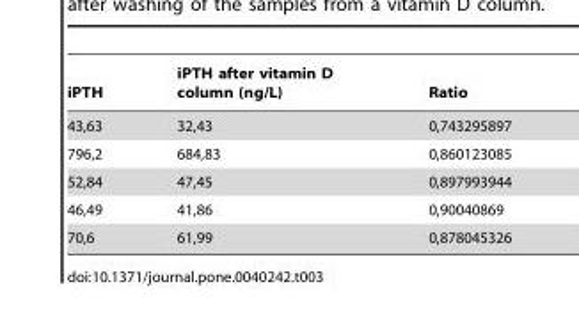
<table><thead><tr><td>iPTH</td><td>iPTH after vitamin D column (ng/L)</td><td>Ratio</td></tr></thead><tbody><tr><td>43,63</td><td>32,43</td><td>0,743295897</td></tr><tr><td>796,2</td><td>684,83</td><td>0,860123085</td></tr><tr><td>52,84</td><td>47,45</td><td>0,897993944</td></tr><tr><td>46,49</td><td>41,86</td><td>0,90040869</td></tr><tr><td>70,6</td><td>61,99</td><td>0,878045326</td></tr></tbody></table>